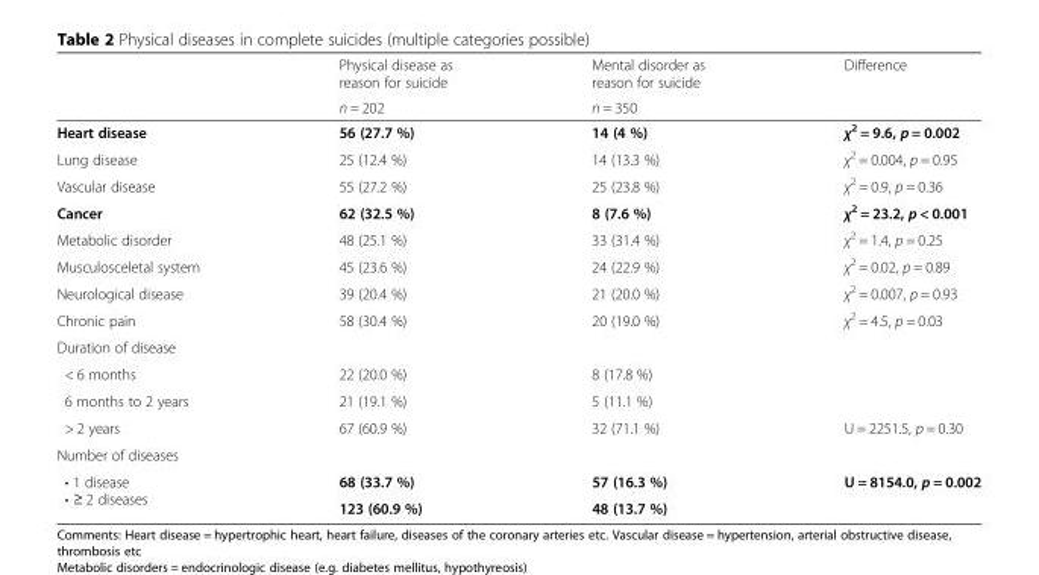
<table><thead><tr><td rowspan="2"></td><td rowspan="2">Physical disease as reason for suicide n = 202</td><td rowspan="2">Mental disorder as reason for suicide n = 350</td><td rowspan="2">Difference</td></tr><tr></tr></thead><tbody><tr><td>Heart disease</td><td>56 (27.7 %)</td><td>14 (4 %)</td><td>χ<sup>2</sup> = 9.6, p = 0.002</td></tr><tr><td>Lung disease</td><td>25 (12.4 %)</td><td>14 (13.3 %)</td><td>χ<sup>2</sup> = 0.004, p = 0.95</td></tr><tr><td>Vascular disease</td><td>55 (27.2 %)</td><td>25 (23.8 %)</td><td>χ<sup>2</sup> = 0.9, p = 0.36</td></tr><tr><td>Cancer</td><td>62 (32.5 %)</td><td>8 (7.6 %)</td><td>χ<sup>2</sup> = 23.2, p &lt; 0.001</td></tr><tr><td>Metabolic disorder</td><td>48 (25.1 %)</td><td>33 (31.4 %)</td><td>χ<sup>2</sup> = 1.4, p = 0.25</td></tr><tr><td>Musculosceletal system</td><td>45 (23.6 %)</td><td>24 (22.9 %)</td><td>χ<sup>2</sup> = 0.02, p = 0.89</td></tr><tr><td>Neurological disease</td><td>39 (20.4 %)</td><td>21 (20.0 %)</td><td>χ<sup>2</sup> = 0.007, p = 0.93</td></tr><tr><td>Chronic pain</td><td>58 (30.4 %)</td><td>20 (19.0 %)</td><td>χ<sup>2</sup> = 4.5, p = 0.03</td></tr><tr><td colspan="4">Duration of disease</td></tr><tr><td>&lt; 6 months</td><td>22 (20.0 %)</td><td>8 (17.8 %)</td><td></td></tr><tr><td>6 months to 2 years</td><td>21 (19.1 %)</td><td>5 (11.1 %)</td><td></td></tr><tr><td>&gt; 2 years</td><td>67 (60.9 %)</td><td>32 (71.1 %)</td><td>U = 2251.5, p = 0.30</td></tr><tr><td colspan="4">Number of diseases</td></tr><tr><td rowspan="2">• 1 disease • ≥ 2 diseases</td><td>68 (33.7 %)</td><td>57 (16.3 %)</td><td rowspan="2">U = 8154.0, p = 0.002</td></tr><tr><td>123 (60.9 %)</td><td>48 (13.7 %)</td></tr></tbody></table>